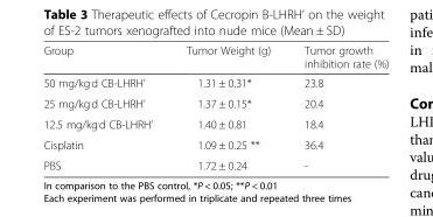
<table><thead><tr><td>Group</td><td>Tumor Weight (g)</td><td>Tumor growth inhibition rate (%)</td></tr></thead><tbody><tr><td>50 mg/kg<sup>.</sup>d CB-LHRH’</td><td>1.31 ± 0.31*</td><td>23.8</td></tr><tr><td>25 mg/kg<sup>.</sup>d CB-LHRH’</td><td>1.37 ± 0.15*</td><td>20.4</td></tr><tr><td>12.5 mg/kg<sup>.</sup>d CB-LHRH’</td><td>1.40 ± 0.81</td><td>18.4</td></tr><tr><td>Cisplatin</td><td>1.09 ± 0.25 **</td><td>36.4</td></tr><tr><td>PBS</td><td>1.72 ± 0.24</td><td>-</td></tr></tbody></table>